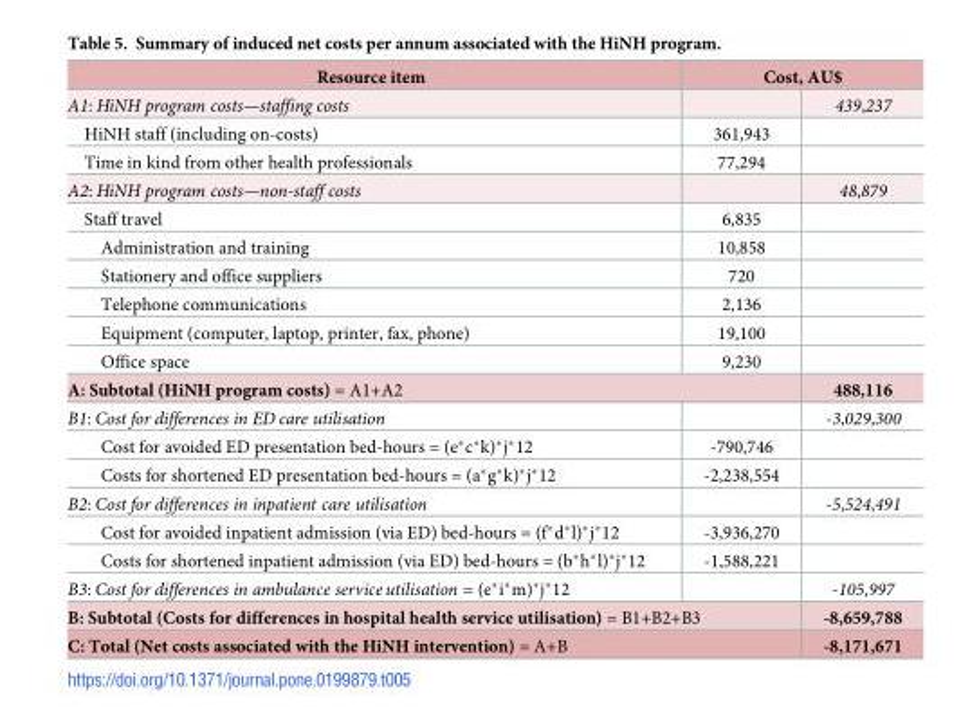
<table><thead><tr><td rowspan="2">Resource item A1: HiNH program costs—staffing costs</td><td colspan="2">Cost, AU$</td></tr><tr><td></td><td>439,237</td></tr></thead><tbody><tr><td>HiNH staff (including on-costs)</td><td>361,943</td><td></td></tr><tr><td>Time in kind from other health professionals</td><td>77,294</td><td></td></tr><tr><td>A2: HiNH program costs—non-staff costs</td><td></td><td>48,879</td></tr><tr><td>Staff travel</td><td>6,835</td><td></td></tr><tr><td>Administration and training</td><td>10,858</td><td></td></tr><tr><td>Stationery and office suppliers</td><td>720</td><td></td></tr><tr><td>Telephone communications</td><td>2,136</td><td></td></tr><tr><td>Equipment (computer, laptop, printer, fax, phone)</td><td>19,100</td><td></td></tr><tr><td>Office space</td><td>9,230</td><td></td></tr><tr><td colspan="2">A: Subtotal (HiNH program costs) = A1+A2</td><td>488,116</td></tr><tr><td>B1: Cost for differences in ED care utilisation</td><td></td><td>-3,029,300</td></tr><tr><td>Cost for avoided ED presentation bed-hours = (e*c*k)*j*12</td><td>-790,746</td><td></td></tr><tr><td>Costs for shortened ED presentation bed-hours = (a*g*k)*j*12</td><td>-2,238,554</td><td></td></tr><tr><td>B2: Cost for differences in inpatient care utilisation</td><td></td><td>-5,524,491</td></tr><tr><td>Cost for avoided inpatient admission (via ED) bed-hours = (f*d*l)*j*12</td><td>-3,936,270</td><td></td></tr><tr><td>Costs for shortened inpatient admission (via ED) bed-hours = (b*h*l)*j*12</td><td>-1,588,221</td><td></td></tr><tr><td>B3: Cost for differences in ambulance service utilisation = (e*i*m)*j*12</td><td></td><td>-105,997</td></tr><tr><td colspan="2">B: Subtotal (Costs for differences in hospital health service utilisation) = B1+B2+B3</td><td>-8,659,788</td></tr><tr><td colspan="2">C: Total (Net costs associated with the HiNH intervention) = A+B</td><td>-8,171,671</td></tr></tbody></table>